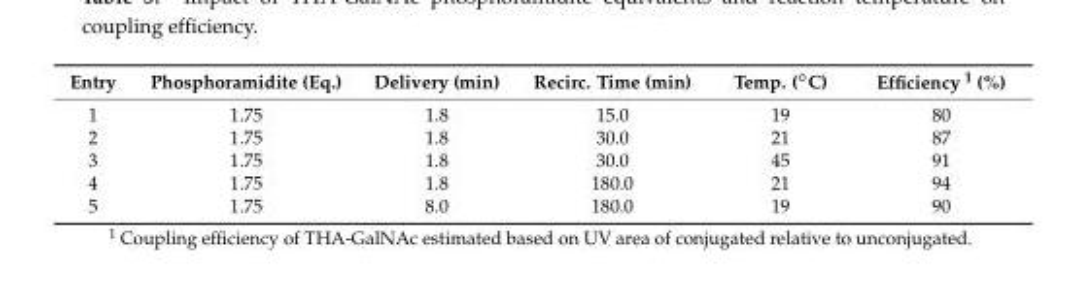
<table><thead><tr><td>Entry</td><td>Phosphoramidite (Eq.)</td><td>Delivery (min)</td><td>Recirc. Time (min)</td><td>Temp. (◦C)</td><td>Efficiency 1 (%)</td></tr></thead><tbody><tr><td>1</td><td>1.75</td><td>1.8</td><td>15.0</td><td>19</td><td>80</td></tr><tr><td>2</td><td>1.75</td><td>1.8</td><td>30.0</td><td>21</td><td>87</td></tr><tr><td>3</td><td>1.75</td><td>1.8</td><td>30.0</td><td>45</td><td>91</td></tr><tr><td>4</td><td>1.75</td><td>1.8</td><td>180.0</td><td>21</td><td>94</td></tr><tr><td>5</td><td>1.75</td><td>8.0</td><td>180.0</td><td>19</td><td>90</td></tr></tbody></table>